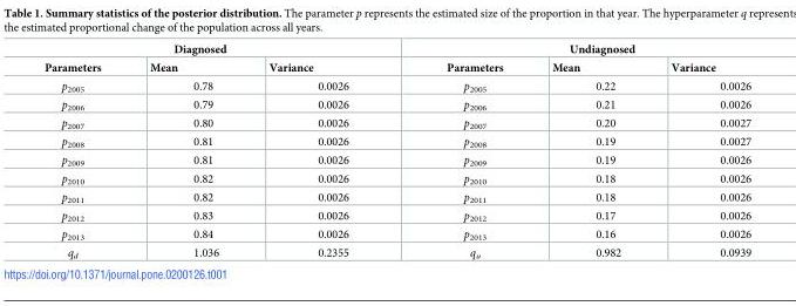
<table><thead><tr><td colspan="3">Diagnosed</td><td colspan="3">Undiagnosed</td></tr><tr><td>Parameters</td><td>Mean</td><td>Variance</td><td>Parameters</td><td>Mean</td><td>Variance</td></tr></thead><tbody><tr><td>p<sub>2005</sub></td><td>0.78</td><td>0.0026</td><td>p<sub>2005</sub></td><td>0.22</td><td>0.0026</td></tr><tr><td>p<sub>2006</sub></td><td>0.79</td><td>0.0026</td><td>p<sub>2006</sub></td><td>0.21</td><td>0.0026</td></tr><tr><td>p<sub>2007</sub></td><td>0.80</td><td>0.0026</td><td>p<sub>2007</sub></td><td>0.20</td><td>0.0027</td></tr><tr><td>p<sub>2008</sub></td><td>0.81</td><td>0.0026</td><td>p<sub>2008</sub></td><td>0.19</td><td>0.0027</td></tr><tr><td>p<sub>2009</sub></td><td>0.81</td><td>0.0026</td><td>p<sub>2009</sub></td><td>0.19</td><td>0.0026</td></tr><tr><td>p<sub>2010</sub></td><td>0.82</td><td>0.0026</td><td>p<sub>2010</sub></td><td>0.18</td><td>0.0026</td></tr><tr><td>p<sub>2011</sub></td><td>0.82</td><td>0.0026</td><td>p<sub>2011</sub></td><td>0.18</td><td>0.0026</td></tr><tr><td>p<sub>2012</sub></td><td>0.83</td><td>0.0026</td><td>p<sub>2012</sub></td><td>0.17</td><td>0.0026</td></tr><tr><td>p<sub>2013</sub></td><td>0.84</td><td>0.0026</td><td>p<sub>2013</sub></td><td>0.16</td><td>0.0026</td></tr><tr><td>q<sub>d</sub></td><td>1.036</td><td>0.2355</td><td>q<sub>u</sub></td><td>0.982</td><td>0.0939</td></tr></tbody></table>